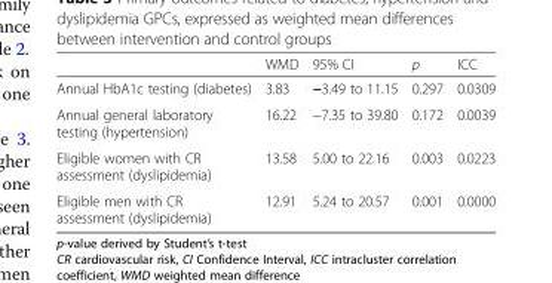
<table><thead><tr><td></td><td>WMD</td><td>95% CI</td><td>p</td><td>ICC</td></tr></thead><tbody><tr><td>Annual HbA1c testing (diabetes)</td><td>3.83</td><td>−3.49 to 11.15</td><td>0.297</td><td>0.0309</td></tr><tr><td>Annual general laboratory testing (hypertension)</td><td>16.22</td><td>−7.35 to 39.80</td><td>0.172</td><td>0.0039</td></tr><tr><td>Eligible women with CR assessment (dyslipidemia)</td><td>13.58</td><td>5.00 to 22.16</td><td>0.003</td><td>0.0223</td></tr><tr><td>Eligible men with CR assessment (dyslipidemia)</td><td>12.91</td><td>5.24 to 20.57</td><td>0.001</td><td>0.0000</td></tr></tbody></table>